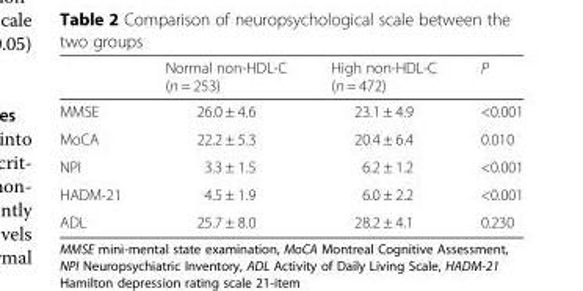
<table><thead><tr><td></td><td>Normal non-HDL-C (n = 253)</td><td>High non-HDL-C (n = 472)</td><td>P</td></tr></thead><tbody><tr><td>MMSE</td><td>26.0 ± 4.6</td><td>23.1 ± 4.9</td><td>&lt;0.001</td></tr><tr><td>MoCA</td><td>22.2 ± 5.3</td><td>20.4 ± 6.4</td><td>0.010</td></tr><tr><td>NPI</td><td>3.3 ± 1.5</td><td>6.2 ± 1.2</td><td>&lt;0.001</td></tr><tr><td>HADM-21</td><td>4.5 ± 1.9</td><td>6.0 ± 2.2</td><td>&lt;0.001</td></tr><tr><td>ADL</td><td>25.7 ± 8.0</td><td>28.2 ± 4.1</td><td>0.230</td></tr></tbody></table>